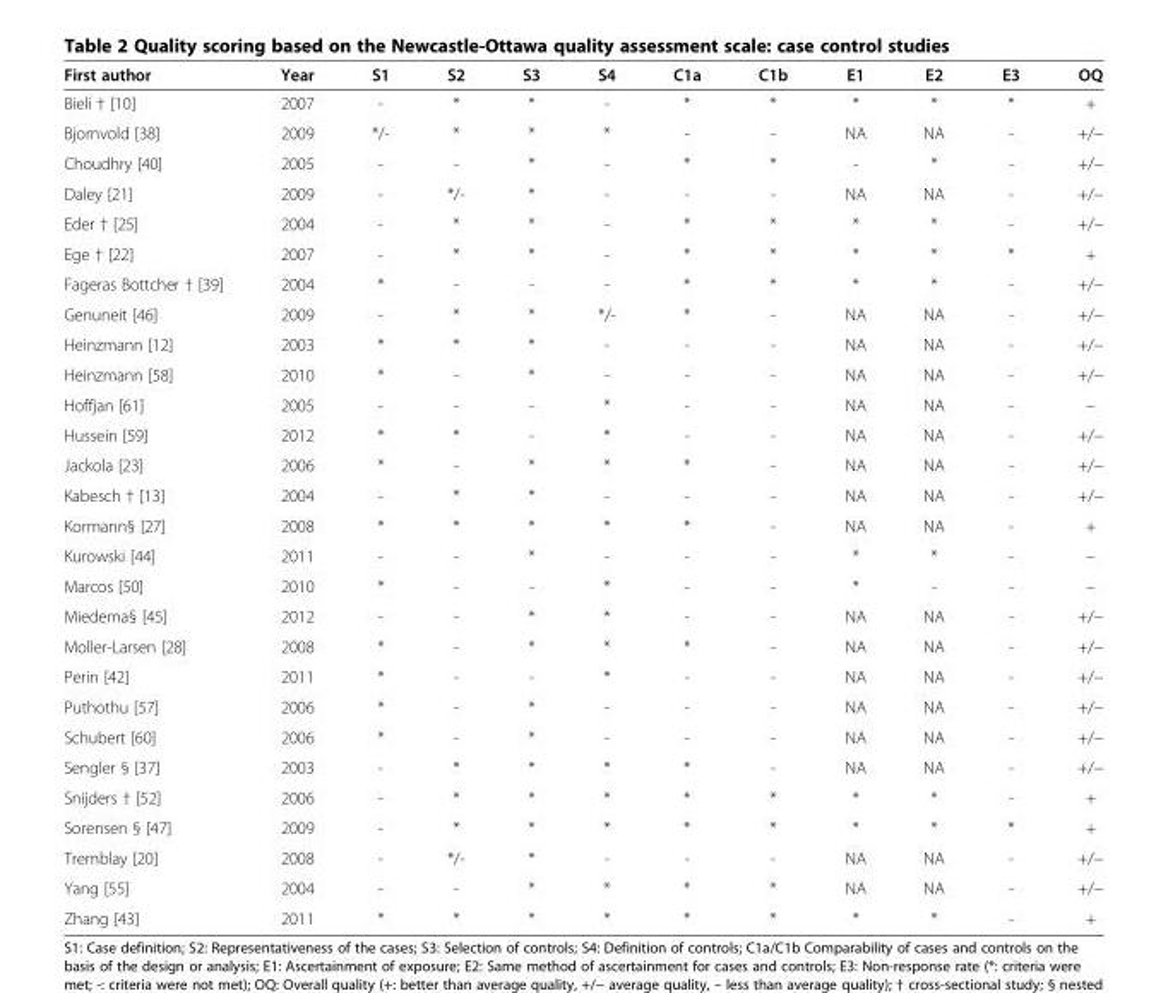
<table><thead><tr><td>First author</td><td>Year</td><td>S1</td><td>S2</td><td>S3</td><td>S4</td><td>C1a</td><td>C1b</td><td>E1</td><td>E2</td><td>E3</td><td>OQ</td></tr></thead><tbody><tr><td>Bieli † [10]</td><td>2007</td><td>-</td><td>*</td><td>*</td><td>-</td><td>*</td><td>*</td><td>*</td><td>*</td><td>*</td><td>+</td></tr><tr><td>Bjornvold [38]</td><td>2009</td><td>*/-</td><td>*</td><td>*</td><td>*</td><td>-</td><td>-</td><td>NA</td><td>NA</td><td>-</td><td>+/−</td></tr><tr><td>Choudhry [40]</td><td>2005</td><td>-</td><td>-</td><td>*</td><td>-</td><td>*</td><td>*</td><td>-</td><td>*</td><td>-</td><td>+/−</td></tr><tr><td>Daley [21]</td><td>2009</td><td>-</td><td>*/-</td><td>*</td><td>-</td><td>-</td><td>-</td><td>NA</td><td>NA</td><td>-</td><td>+/−</td></tr><tr><td>Eder † [25]</td><td>2004</td><td>-</td><td>*</td><td>*</td><td>-</td><td>*</td><td>*</td><td>*</td><td>*</td><td>-</td><td>+/−</td></tr><tr><td>Ege † [22]</td><td>2007</td><td>-</td><td>*</td><td>*</td><td>-</td><td>*</td><td>*</td><td>*</td><td>*</td><td>*</td><td>+</td></tr><tr><td>Fageras Bottcher † [39]</td><td>2004</td><td>*</td><td>-</td><td>-</td><td>-</td><td>*</td><td>*</td><td>*</td><td>*</td><td>-</td><td>+/−</td></tr><tr><td>Genuneit [46]</td><td>2009</td><td>-</td><td>*</td><td>*</td><td>*/-</td><td>*</td><td>-</td><td>NA</td><td>NA</td><td>-</td><td>+/−</td></tr><tr><td>Heinzmann [12]</td><td>2003</td><td>*</td><td>*</td><td>*</td><td>-</td><td>-</td><td>-</td><td>NA</td><td>NA</td><td>-</td><td>+/−</td></tr><tr><td>Heinzmann [58]</td><td>2010</td><td>*</td><td>-</td><td>*</td><td>-</td><td>-</td><td>-</td><td>NA</td><td>NA</td><td>-</td><td>+/−</td></tr><tr><td>Hoffjan [61]</td><td>2005</td><td>-</td><td>-</td><td>-</td><td>*</td><td>-</td><td>-</td><td>NA</td><td>NA</td><td>-</td><td>–</td></tr><tr><td>Hussein [59]</td><td>2012</td><td>*</td><td>*</td><td>-</td><td>*</td><td>-</td><td>-</td><td>NA</td><td>NA</td><td>-</td><td>+/−</td></tr><tr><td>Jackola [23]</td><td>2006</td><td>*</td><td>-</td><td>*</td><td>*</td><td>*</td><td>-</td><td>NA</td><td>NA</td><td>-</td><td>+/−</td></tr><tr><td>Kabesch † [13]</td><td>2004</td><td>-</td><td>*</td><td>*</td><td>-</td><td>-</td><td>-</td><td>NA</td><td>NA</td><td>-</td><td>+/−</td></tr><tr><td>Kormann§ [27]</td><td>2008</td><td>*</td><td>*</td><td>*</td><td>*</td><td>*</td><td>-</td><td>NA</td><td>NA</td><td>-</td><td>+</td></tr><tr><td>Kurowski [44]</td><td>2011</td><td>-</td><td>-</td><td>*</td><td>-</td><td>-</td><td>-</td><td>*</td><td>*</td><td>-</td><td>–</td></tr><tr><td>Marcos [50]</td><td>2010</td><td>*</td><td>-</td><td>-</td><td>*</td><td>-</td><td>-</td><td>*</td><td>-</td><td>-</td><td>–</td></tr><tr><td>Miedema§ [45]</td><td>2012</td><td>-</td><td>-</td><td>*</td><td>*</td><td>-</td><td>-</td><td>NA</td><td>NA</td><td>-</td><td>+/−</td></tr><tr><td>Moller-Larsen [28]</td><td>2008</td><td>*</td><td>-</td><td>*</td><td>*</td><td>*</td><td>-</td><td>NA</td><td>NA</td><td>-</td><td>+/−</td></tr><tr><td>Perin [42]</td><td>2011</td><td>*</td><td>-</td><td>-</td><td>*</td><td>-</td><td>-</td><td>NA</td><td>NA</td><td>-</td><td>+/−</td></tr><tr><td>Puthothu [57]</td><td>2006</td><td>*</td><td>-</td><td>*</td><td>-</td><td>-</td><td>-</td><td>NA</td><td>NA</td><td>-</td><td>+/−</td></tr><tr><td>Schubert [60]</td><td>2006</td><td>*</td><td>-</td><td>*</td><td>-</td><td>-</td><td>-</td><td>NA</td><td>NA</td><td>-</td><td>+/−</td></tr><tr><td>Sengler § [37]</td><td>2003</td><td>-</td><td>*</td><td>*</td><td>*</td><td>*</td><td>-</td><td>NA</td><td>NA</td><td>-</td><td>+/−</td></tr><tr><td>Snijders † [52]</td><td>2006</td><td>-</td><td>*</td><td>*</td><td>*</td><td>*</td><td>*</td><td>*</td><td>*</td><td>-</td><td>+</td></tr><tr><td>Sorensen § [47]</td><td>2009</td><td>-</td><td>*</td><td>*</td><td>*</td><td>*</td><td>*</td><td>*</td><td>*</td><td>*</td><td>+</td></tr><tr><td>Tremblay [20]</td><td>2008</td><td>-</td><td>*/-</td><td>*</td><td>-</td><td>-</td><td>-</td><td>NA</td><td>NA</td><td>-</td><td>+/−</td></tr><tr><td>Yang [55]</td><td>2004</td><td>-</td><td>-</td><td>*</td><td>*</td><td>*</td><td>*</td><td>NA</td><td>NA</td><td>-</td><td>+/−</td></tr><tr><td>Zhang [43]</td><td>2011</td><td>*</td><td>*</td><td>*</td><td>*</td><td>*</td><td>*</td><td>*</td><td>*</td><td>-</td><td>+</td></tr></tbody></table>